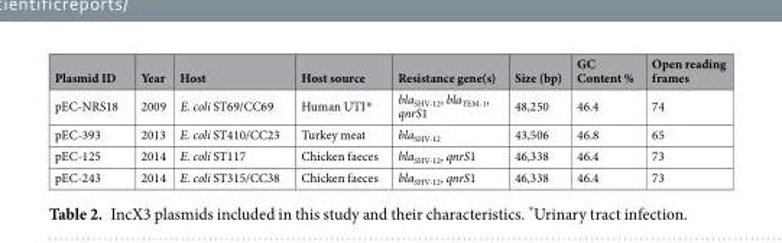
<table><thead><tr><td>Plasmid ID</td><td>Year</td><td>Host</td><td>Host source</td><td>Resistance gene(s)</td><td>Size (bp)</td><td>GC Content %</td><td>Open reading frames</td></tr></thead><tbody><tr><td>pEC-NRS18</td><td>2009</td><td>E. coli ST69/CC69</td><td>Human UTI*</td><td>bla<sub>SHV-12</sub>, bla<sub>TEM-1</sub>, qnrS1</td><td>48,250</td><td>46.4</td><td>74</td></tr><tr><td>pEC-393</td><td>2013</td><td>E. coli ST410/CC23</td><td>Turkey meat</td><td>bla<sub>SHV-12</sub></td><td>43,506</td><td>46.8</td><td>65</td></tr><tr><td>pEC-125</td><td>2014</td><td>E. coli ST117</td><td>Chicken faeces</td><td>bla<sub>SHV-12</sub>, qnrS1</td><td>46,338</td><td>46.4</td><td>73</td></tr><tr><td>pEC-243</td><td>2014</td><td>E. coli ST315/CC38</td><td>Chicken faeces</td><td>bla<sub>SHV-12</sub>, qnrS1</td><td>46,338</td><td>46.4</td><td>73</td></tr></tbody></table>